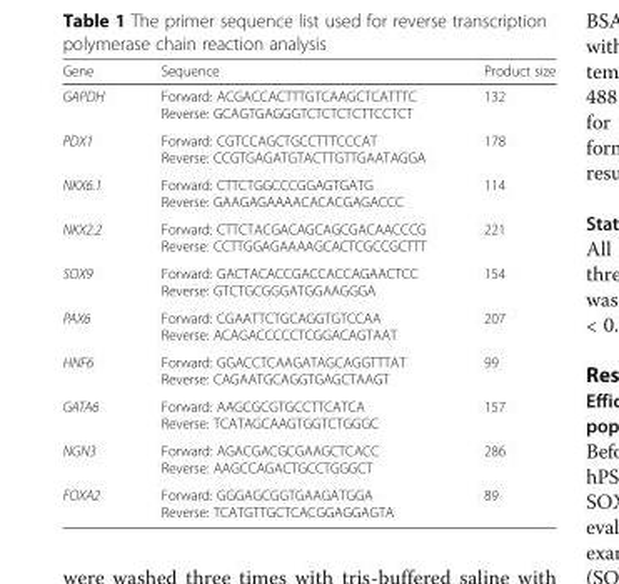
<table><thead><tr><td>Gene</td><td>Sequence</td><td>Product size</td></tr></thead><tbody><tr><td>GAPDH</td><td>Forward: ACGACCACTTTGTCAAGCTCATTTC Reverse: GCAGTGAGGGTCTCTCTCTTCCTCT</td><td>132</td></tr><tr><td>PDX1</td><td>Forward: CGTCCAGCTGCCTTTCCCAT Reverse: CCGTGAGATGTACTTGTTGAATAGGA</td><td>178</td></tr><tr><td>NKX6.1</td><td>Forward: CTTCTGGCCCGGAGTGATG Reverse: GAAGAGAAAACACACGAGACCC</td><td>114</td></tr><tr><td>NKX2.2</td><td>Forward: CTTCTACGACAGCAGCGACAACCCG Reverse: CCTTGGAGAAAAGCACTCGCCGCTTT</td><td>221</td></tr><tr><td>SOX9</td><td>Forward: GACTACACCGACCACCAGAACTCC Reverse: GTCTGCGGGATGGAAGGGA</td><td>154</td></tr><tr><td>PAX6</td><td>Forward: CGAATTCTGCAGGTGTCCAA Reverse: ACAGACCCCCTCGGACAGTAAT</td><td>207</td></tr><tr><td>HNF6</td><td>Forward: GGACCTCAAGATAGCAGGTTTAT Reverse: CAGAATGCAGGTGAGCTAAGT</td><td>99</td></tr><tr><td>GATA6</td><td>Forward: AAGCGCGTGCCTTCATCA Reverse: TCATAGCAAGTGGTCTGGGC</td><td>157</td></tr><tr><td>NGN3</td><td>Forward: AGACGACGCGAAGCTCACC Reverse: AAGCCAGACTGCCTGGGCT</td><td>286</td></tr><tr><td>FOXA2</td><td>Forward: GGGAGCGGTGAAGATGGA Reverse: TCATGTTGCTCACGGAGGAGTA</td><td>89</td></tr></tbody></table>